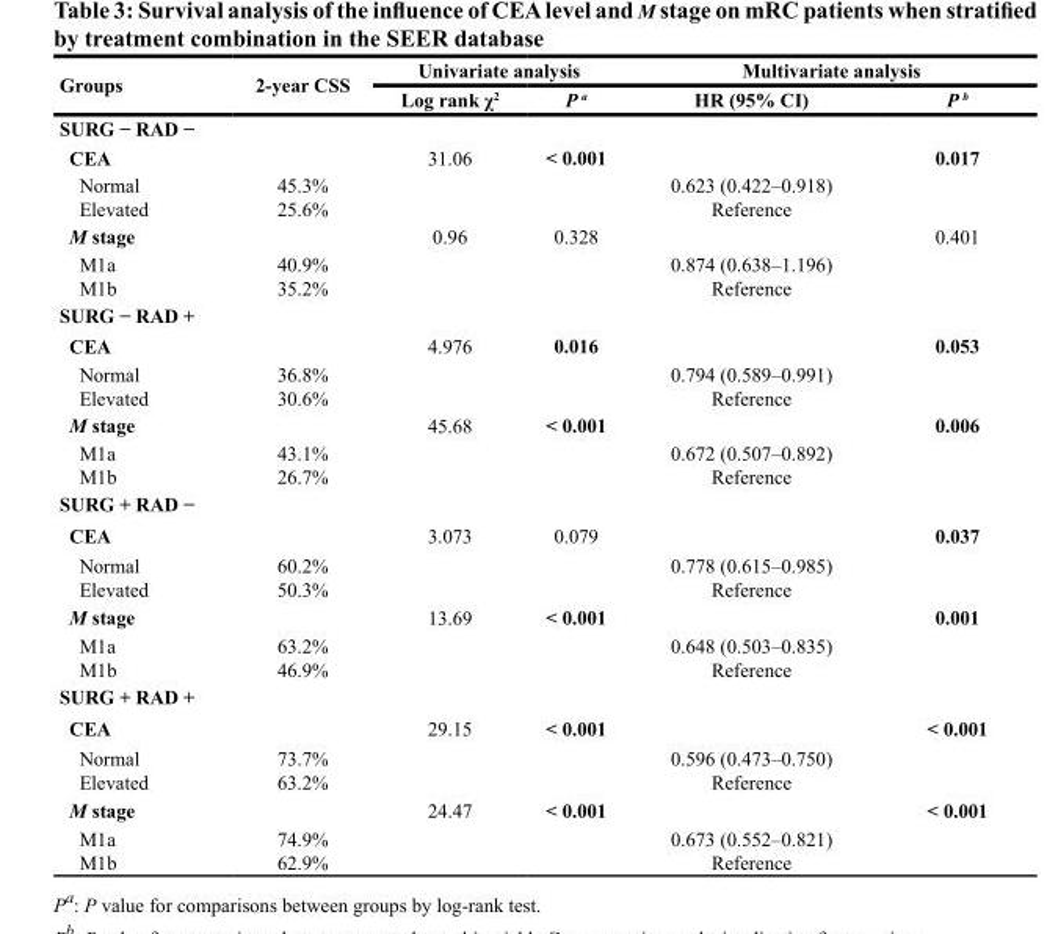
<table><thead><tr><td rowspan="2">Groups</td><td rowspan="2">2-year CSS</td><td colspan="2">Univariate analysis</td><td colspan="2">Multivariate analysis</td></tr><tr><td>Log rank χ2</td><td>P <sup>a</sup></td><td>HR (95% CI)</td><td>P <sup>b</sup></td></tr></thead><tbody><tr><td colspan="6">SURG − RAD −</td></tr><tr><td>CEA</td><td></td><td>31.06</td><td>&lt; 0.001</td><td></td><td>0.017</td></tr><tr><td>Normal</td><td>45.3%</td><td rowspan="2"></td><td rowspan="2"></td><td>0.623 (0.422–0.918)</td><td rowspan="2"></td></tr><tr><td>Elevated</td><td>25.6%</td><td>Reference</td></tr><tr><td>M stage</td><td></td><td>0.96</td><td>0.328</td><td></td><td>0.401</td></tr><tr><td>M1a</td><td>40.9%</td><td rowspan="2"></td><td rowspan="2"></td><td>0.874 (0.638–1.196)</td><td rowspan="2"></td></tr><tr><td>M1b</td><td>35.2%</td><td>Reference</td></tr><tr><td colspan="6">SURG − RAD +</td></tr><tr><td>CEA</td><td></td><td>4.976</td><td>0.016</td><td></td><td>0.053</td></tr><tr><td>Normal</td><td>36.8%</td><td rowspan="2"></td><td rowspan="2"></td><td>0.794 (0.589–0.991)</td><td rowspan="2"></td></tr><tr><td>Elevated</td><td>30.6%</td><td>Reference</td></tr><tr><td>M stage</td><td></td><td>45.68</td><td>&lt; 0.001</td><td></td><td>0.006</td></tr><tr><td>M1a</td><td>43.1%</td><td rowspan="2"></td><td rowspan="2"></td><td>0.672 (0.507–0.892)</td><td rowspan="2"></td></tr><tr><td>M1b</td><td>26.7%</td><td>Reference</td></tr><tr><td colspan="6">SURG + RAD −</td></tr><tr><td>CEA</td><td></td><td>3.073</td><td>0.079</td><td></td><td>0.037</td></tr><tr><td>Normal</td><td>60.2%</td><td rowspan="2"></td><td rowspan="2"></td><td>0.778 (0.615–0.985)</td><td rowspan="2"></td></tr><tr><td>Elevated</td><td>50.3%</td><td>Reference</td></tr><tr><td>M stage</td><td></td><td>13.69</td><td>&lt; 0.001</td><td></td><td>0.001</td></tr><tr><td>M1a</td><td>63.2%</td><td rowspan="2"></td><td rowspan="2"></td><td>0.648 (0.503–0.835)</td><td rowspan="2"></td></tr><tr><td>M1b</td><td>46.9%</td><td>Reference</td></tr><tr><td colspan="6">SURG + RAD +</td></tr><tr><td>CEA</td><td></td><td>29.15</td><td>&lt; 0.001</td><td></td><td>&lt; 0.001</td></tr><tr><td>Normal</td><td>73.7%</td><td rowspan="2"></td><td rowspan="2"></td><td>0.596 (0.473–0.750)</td><td rowspan="2"></td></tr><tr><td>Elevated</td><td>63.2%</td><td>Reference</td></tr><tr><td>M stage</td><td></td><td>24.47</td><td>&lt; 0.001</td><td></td><td>&lt; 0.001</td></tr><tr><td>M1a</td><td>74.9%</td><td rowspan="2"></td><td rowspan="2"></td><td>0.673 (0.552–0.821)</td><td rowspan="2"></td></tr><tr><td>M1b</td><td>62.9%</td><td>Reference</td></tr></tbody></table>